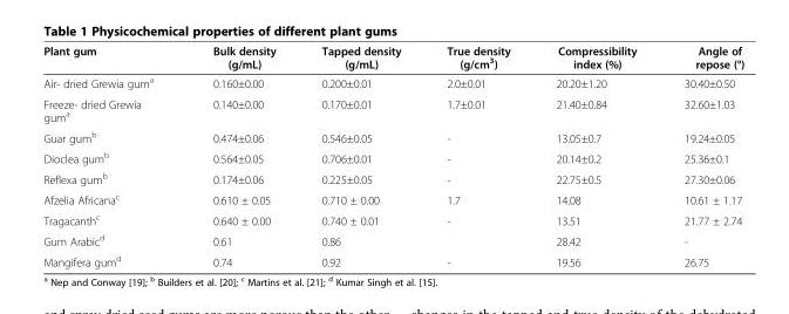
<table><thead><tr><td>Plant gum</td><td>Bulk density (g/mL)</td><td>Tapped density (g/mL)</td><td>True density (g/cm<sup>3</sup>)</td><td>Compressibility index (%)</td><td>Angle of repose (°)</td></tr></thead><tbody><tr><td>Air- dried Grewia gum<sup>a</sup></td><td>0.160±0.00</td><td>0.200±0.01</td><td>2.0±0.01</td><td>20.20±1.20</td><td>30.40±0.50</td></tr><tr><td>Freeze- dried Grewia gum<sup>a</sup></td><td>0.140±0.00</td><td>0.170±0.01</td><td>1.7±0.01</td><td>21.40±0.84</td><td>32.60±1.03</td></tr><tr><td>Guar gum<sup>b</sup></td><td>0.474±0.06</td><td>0.546±0.05</td><td>-</td><td>13.05±0.7</td><td>19.24±0.05</td></tr><tr><td>Dioclea gum<sup>b</sup></td><td>0.564±0.05</td><td>0.706±0.01</td><td>-</td><td>20.14±0.2</td><td>25.36±0.1</td></tr><tr><td>Reflexa gum<sup>b</sup></td><td>0.174±0.06</td><td>0.225±0.05</td><td>-</td><td>22.75±0.5</td><td>27.30±0.06</td></tr><tr><td>Afzelia Africana<sup>c</sup></td><td>0.610 ± 0.05</td><td>0.710 ± 0.00</td><td>1.7</td><td>14.08</td><td>10.61 ± 1.17</td></tr><tr><td>Tragacanth<sup>c</sup></td><td>0.640 ± 0.00</td><td>0.740 ± 0.01</td><td>-</td><td>13.51</td><td>21.77 ± 2.74</td></tr><tr><td>Gum Arabic<sup>d</sup></td><td>0.61</td><td>0.86</td><td></td><td>28.42</td><td>-</td></tr><tr><td>Mangifera gum<sup>d</sup></td><td>0.74</td><td>0.92</td><td>-</td><td>19.56</td><td>26.75</td></tr></tbody></table>